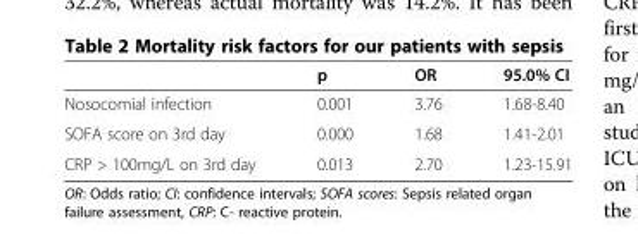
<table><thead><tr><td></td><td>p</td><td>OR</td><td>95.0% CI</td></tr></thead><tbody><tr><td>Nosocomial infection</td><td>0.001</td><td>3.76</td><td>1.68-8.40</td></tr><tr><td>SOFA score on 3rd day</td><td>0.000</td><td>1.68</td><td>1.41-2.01</td></tr><tr><td>CRP &gt; 100mg/L on 3rd day</td><td>0.013</td><td>2.70</td><td>1.23-15.91</td></tr></tbody></table>